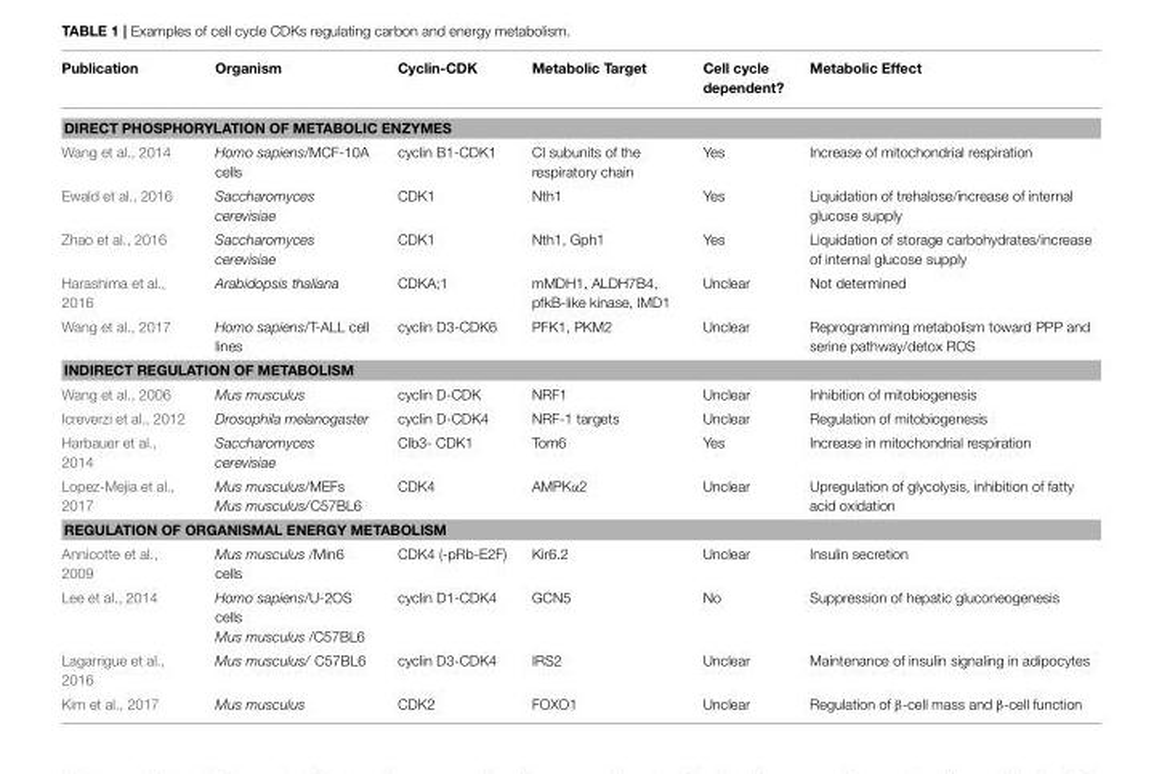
<table><thead><tr><td>Publication</td><td>Organism</td><td>Cyclin-CDK</td><td>Metabolic Target</td><td>Cell cycle dependent?</td><td>Metabolic Effect</td></tr></thead><tbody><tr><td colspan="6">DIRECT PHOSPHORYLATION OF METABOLIC ENZYMES</td></tr><tr><td>Wang et al., 2014</td><td>Homo sapiens/MCF-10A cells</td><td>cyclin B1-CDK1</td><td>CI subunits of the respiratory chain</td><td>Yes</td><td>Increase of mitochondrial respiration</td></tr><tr><td>Ewald et al., 2016</td><td>Saccharomyces cerevisiae</td><td>CDK1</td><td>Nth1</td><td>Yes</td><td>Liquidation of trehalose/increase of internal glucose supply</td></tr><tr><td>Zhao et al., 2016</td><td>Saccharomyces cerevisiae</td><td>CDK1</td><td>Nth1, Gph1</td><td>Yes</td><td>Liquidation of storage carbohydrates/increase of internal glucose supply</td></tr><tr><td>Harashima et al., 2016</td><td>Arabidopsis thaliana</td><td>CDKA;1</td><td>mMDH1, ALDH7B4, pfkB-like kinase, IMD1</td><td>Unclear</td><td>Not determined</td></tr><tr><td>Wang et al., 2017</td><td>Homo sapiens/T-ALL cell lines</td><td>cyclin D3-CDK6</td><td>PFK1, PKM2</td><td>Unclear</td><td>Reprogramming metabolism toward PPP and serine pathway/detox ROS</td></tr><tr><td colspan="6">INDIRECT REGULATION OF METABOLISM</td></tr><tr><td>Wang et al., 2006</td><td>Mus musculus</td><td>cyclin D-CDK</td><td>NRF1</td><td>Unclear</td><td>Inhibition of mitobiogenesis</td></tr><tr><td>Icreverzi et al., 2012</td><td>Drosophila melanogaster</td><td>cyclin D-CDK4</td><td>NRF-1 targets</td><td>Unclear</td><td>Regulation of mitobiogenesis</td></tr><tr><td>Harbauer et al., 2014</td><td>Saccharomyces cerevisiae</td><td>Clb3- CDK1</td><td>Tom6</td><td>Yes</td><td>Increase in mitochondrial respiration</td></tr><tr><td>Lopez-Mejia et al., 2017</td><td>Mus musculus/MEFs Mus musculus/C57BL6</td><td>CDK4</td><td>AMPKα2</td><td>Unclear</td><td>Upregulation of glycolysis, inhibition of fatty acid oxidation</td></tr><tr><td colspan="6">REGULATION OF ORGANISMAL ENERGY METABOLISM</td></tr><tr><td>Annicotte et al., 2009</td><td>Mus musculus /Min6 cells</td><td>CDK4 (-pRb-E2F)</td><td>Kir6.2</td><td>Unclear</td><td>Insulin secretion</td></tr><tr><td>Lee et al., 2014</td><td>Homo sapiens/U-2OS cells Mus musculus /C57BL6</td><td>cyclin D1-CDK4</td><td>GCN5</td><td>No</td><td>Suppression of hepatic gluconeogenesis</td></tr><tr><td>Lagarrigue et al., 2016</td><td>Mus musculus/ C57BL6</td><td>cyclin D3-CDK4</td><td>IRS2</td><td>Unclear</td><td>Maintenance of insulin signaling in adipocytes</td></tr><tr><td>Kim et al., 2017</td><td>Mus musculus</td><td>CDK2</td><td>FOXO1</td><td>Unclear</td><td>Regulation of β-cell mass and β-cell function</td></tr></tbody></table>